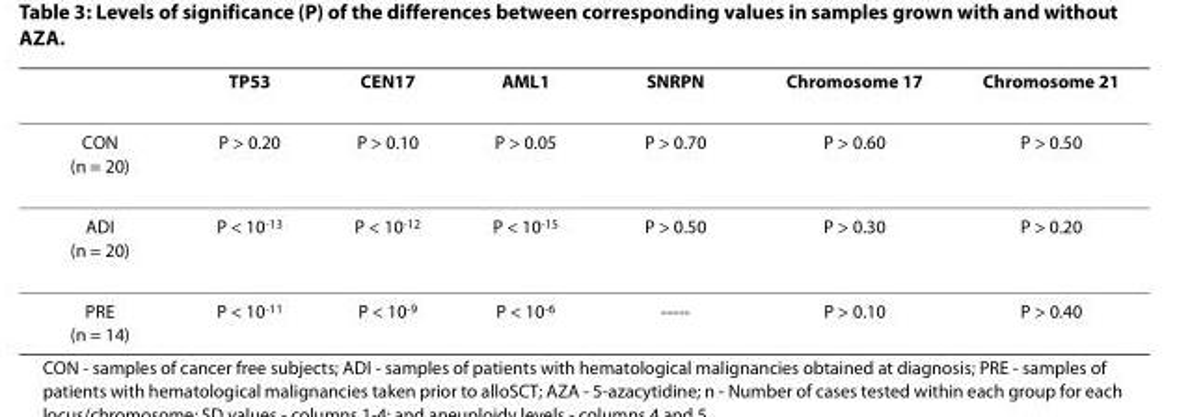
<table><thead><tr><td></td><td>TP53</td><td>CEN17</td><td>AML1</td><td>SNRPN</td><td>Chromosome 17</td><td>Chromosome 21</td></tr></thead><tbody><tr><td>CON (n = 20)</td><td>P &gt; 0.20</td><td>P &gt; 0.10</td><td>P &gt; 0.05</td><td>P &gt; 0.70</td><td>P &gt; 0.60</td><td>P &gt; 0.50</td></tr><tr><td>ADI (n = 20)</td><td>P &lt; 10<sup>-13</sup></td><td>P &lt; 10<sup>-12</sup></td><td>P &lt; 10<sup>-15</sup></td><td>P &gt; 0.50</td><td>P &gt; 0.30</td><td>P &gt; 0.20</td></tr><tr><td>PRE (n = 14)</td><td>P &lt; 10<sup>-11</sup></td><td>P &lt; 10<sup>-9</sup></td><td>P &lt; 10<sup>-6</sup></td><td>-----</td><td>P &gt; 0.10</td><td>P &gt; 0.40</td></tr></tbody></table>